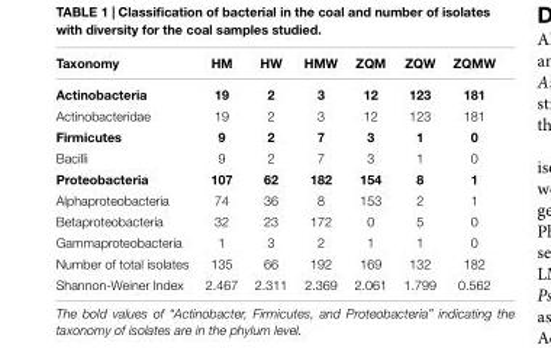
<table><thead><tr><td>Taxonomy</td><td>HM</td><td>HW</td><td>HMW</td><td>ZQM</td><td>ZQW</td><td>ZQMW</td></tr></thead><tbody><tr><td>Actinobacteria</td><td>19</td><td>2</td><td>3</td><td>12</td><td>123</td><td>181</td></tr><tr><td>Actinobacteridae</td><td>19</td><td>2</td><td>3</td><td>12</td><td>123</td><td>181</td></tr><tr><td>Firmicutes</td><td>9</td><td>2</td><td>7</td><td>3</td><td>1</td><td>0</td></tr><tr><td>Bacilli</td><td>9</td><td>2</td><td>7</td><td>3</td><td>1</td><td>0</td></tr><tr><td>Proteobacteria</td><td>107</td><td>62</td><td>182</td><td>154</td><td>8</td><td>1</td></tr><tr><td>Alphaproteobacteria</td><td>74</td><td>36</td><td>8</td><td>153</td><td>2</td><td>1</td></tr><tr><td>Betaproteobacteria</td><td>32</td><td>23</td><td>172</td><td>0</td><td>5</td><td>0</td></tr><tr><td>Gammaproteobacteria</td><td>1</td><td>3</td><td>2</td><td>1</td><td>1</td><td>0</td></tr><tr><td>Number of total isolates</td><td>135</td><td>66</td><td>192</td><td>169</td><td>132</td><td>182</td></tr><tr><td>Shannon-Weiner Index</td><td>2.467</td><td>2.311</td><td>2.369</td><td>2.061</td><td>1.799</td><td>0.562</td></tr></tbody></table>